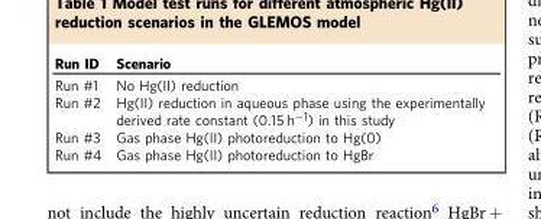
<table><thead><tr><td>Run ID</td><td>Scenario</td></tr></thead><tbody><tr><td>Run #1</td><td>No Hg(II) reduction</td></tr><tr><td>Run #2</td><td>Hg(II) reduction in aqueous phase using the experimentally derived rate constant (0.15 h<sup>−1</sup>) in this study</td></tr><tr><td>Run #3</td><td>Gas phase Hg(II) photoreduction to Hg(0)</td></tr><tr><td>Run #4</td><td>Gas phase Hg(II) photoreduction to HgBr</td></tr></tbody></table>